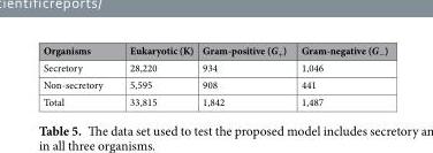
<table><thead><tr><td>Organisms</td><td>Eukaryotic (K)</td><td>Gram-positive (G<sub>+</sub>)</td><td>Gram-negative (G<sub>−</sub>)</td></tr></thead><tbody><tr><td>Secretory</td><td>28,220</td><td>934</td><td>1,046</td></tr><tr><td>Non-secretory</td><td>5,595</td><td>908</td><td>441</td></tr><tr><td>Total</td><td>33,815</td><td>1,842</td><td>1,487</td></tr></tbody></table>